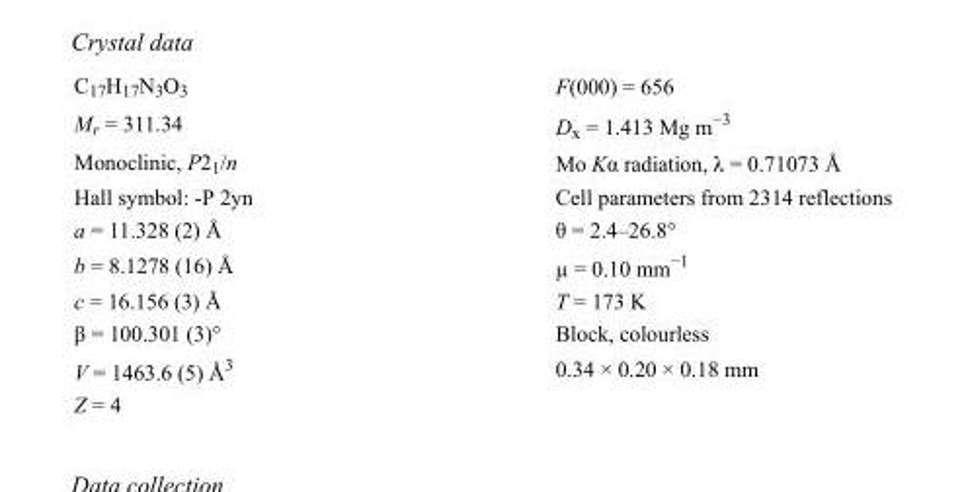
<table><tbody><tr><td>C<sub>17</sub>H<sub>17</sub>N<sub>3</sub>O<sub>3</sub></td><td>F(000) = 656</td></tr><tr><td>M<sub>r</sub> = 311.34</td><td>D<sub>x</sub> = 1.413 Mg m<sup>−3</sup></td></tr><tr><td>Monoclinic, P2<sub>1</sub>/n</td><td>Mo Kα radiation, λ = 0.71073 Å</td></tr><tr><td>Hall symbol: -P 2yn</td><td>Cell parameters from 2314 reflections</td></tr><tr><td>a = 11.328 (2) Å</td><td>θ = 2.4–26.8°</td></tr><tr><td>b = 8.1278 (16) Å</td><td>µ = 0.10 mm<sup>−1</sup></td></tr><tr><td>c = 16.156 (3) Å</td><td>T = 173 K</td></tr><tr><td>β = 100.301 (3)°</td><td>Block, colourless</td></tr><tr><td>V = 1463.6 (5) Å<sup>3</sup></td><td>0.34 × 0.20 × 0.18 mm</td></tr><tr><td>Z = 4</td><td></td></tr></tbody></table>